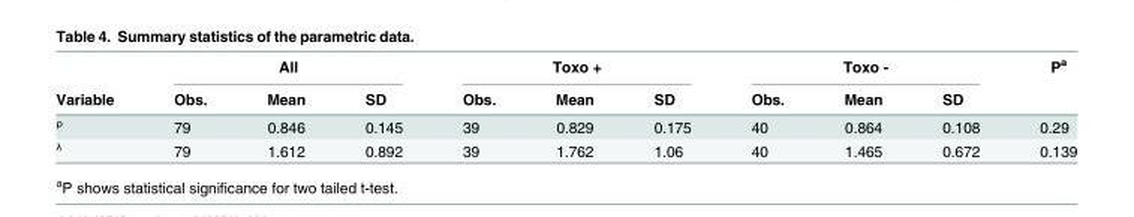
<table><thead><tr><td rowspan="2">Variable</td><td colspan="3">All</td><td colspan="3">Toxo +</td><td colspan="3">Toxo -</td><td rowspan="2">P<sup>a</sup></td></tr><tr><td>Obs.</td><td>Mean</td><td>SD</td><td>Obs.</td><td>Mean</td><td>SD</td><td>Obs.</td><td>Mean</td><td>SD</td></tr></thead><tbody><tr><td><sup>ρ</sup></td><td>79</td><td>0.846</td><td>0.145</td><td>39</td><td>0.829</td><td>0.175</td><td>40</td><td>0.864</td><td>0.108</td><td>0.29</td></tr><tr><td><sup>λ</sup></td><td>79</td><td>1.612</td><td>0.892</td><td>39</td><td>1.762</td><td>1.06</td><td>40</td><td>1.465</td><td>0.672</td><td>0.139</td></tr></tbody></table>